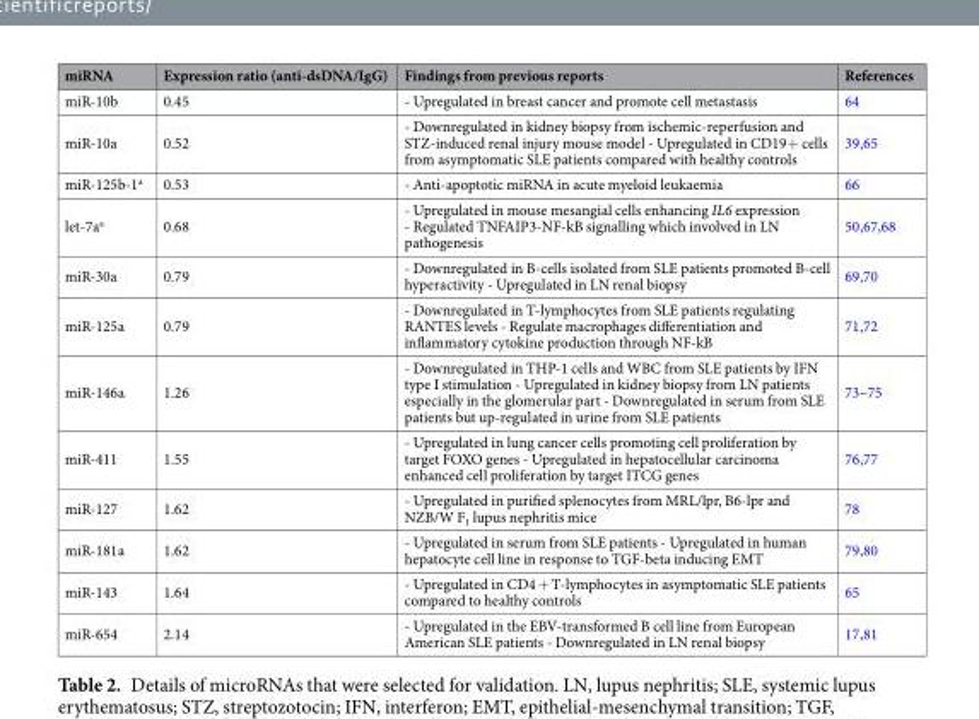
<table><thead><tr><td>miRNA</td><td>Expression ratio (anti-dsDNA/IgG)</td><td>Findings from previous reports</td><td>References</td></tr></thead><tbody><tr><td>miR-10b</td><td>0.45</td><td>- Upregulated in breast cancer and promote cell metastasis</td><td>64</td></tr><tr><td>miR-10a</td><td>0.52</td><td>- Downregulated in kidney biopsy from ischemic-reperfusion and STZ-induced renal injury mouse model - Upregulated in CD19+ cells from asymptomatic SLE patients compared with healthy controls</td><td>39,65</td></tr><tr><td>miR-125b-1<sup>a</sup></td><td>0.53</td><td>- Anti-apoptotic miRNA in acute myeloid leukaemia</td><td>66</td></tr><tr><td>let-7a<sup>a</sup></td><td>0.68</td><td>- Upregulated in mouse mesangial cells enhancing IL6 expression - Regulated TNFAIP3-NF-kB signalling which involved in LN pathogenesis</td><td>50,67,68</td></tr><tr><td>miR-30a</td><td>0.79</td><td>- Downregulated in B-cells isolated from SLE patients promoted B-cell hyperactivity - Upregulated in LN renal biopsy</td><td>69,70</td></tr><tr><td>miR-125a</td><td>0.79</td><td>- Downregulated in T-lymphocytes from SLE patients regulating RANTES levels - Regulate macrophages differentiation and inflammatory cytokine production through NF-kB</td><td>71,72</td></tr><tr><td>miR-146a</td><td>1.26</td><td>- Downregulated in THP-1 cells and WBC from SLE patients by IFN type I stimulation - Upregulated in kidney biopsy from LN patients especially in the glomerular part - Downregulated in serum from SLE patients but up-regulated in urine from SLE patients</td><td>73–75</td></tr><tr><td>miR-411</td><td>1.55</td><td>- Upregulated in lung cancer cells promoting cell proliferation by target FOXO genes - Upregulated in hepatocellular carcinoma enhanced cell proliferation by target ITCG genes</td><td>76,77</td></tr><tr><td>miR-127</td><td>1.62</td><td>- Upregulated in purified splenocytes from MRL/lpr, B6-lpr and NZB/W F<sub>1</sub> lupus nephritis mice</td><td>78</td></tr><tr><td>miR-181a</td><td>1.62</td><td>- Upregulated in serum from SLE patients - Upregulated in human hepatocyte cell line in response to TGF-beta inducing EMT</td><td>79,80</td></tr><tr><td>miR-143</td><td>1.64</td><td>- Upregulated in CD4 + T-lymphocytes in asymptomatic SLE patients compared to healthy controls</td><td>65</td></tr><tr><td>miR-654</td><td>2.14</td><td>- Upregulated in the EBV-transformed B cell line from European American SLE patients - Downregulated in LN renal biopsy</td><td>17,81</td></tr></tbody></table>